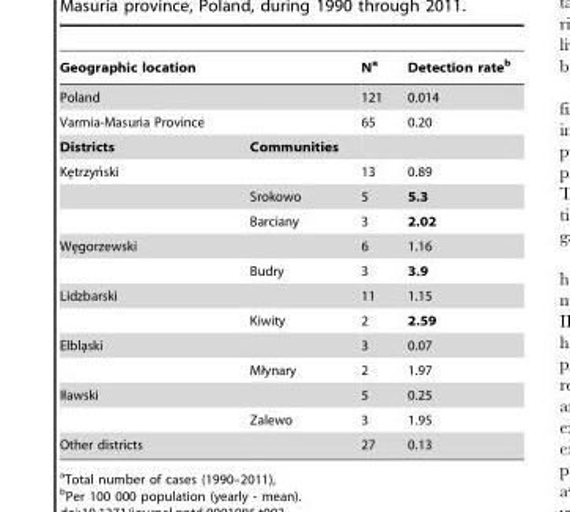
<table><thead><tr><td colspan="2">Geographic location</td><td rowspan="2">N<sup>a</sup> 121</td><td rowspan="2">Detection rate<sup>b</sup> 0.014</td></tr><tr><td>Poland</td><td></td></tr></thead><tbody><tr><td>Varmia-Masuria Province</td><td></td><td>65</td><td>0.20</td></tr><tr><td>Districts</td><td>Communities</td><td></td><td></td></tr><tr><td rowspan="3">Ke˛trzyn´ski</td><td></td><td>13</td><td>0.89</td></tr><tr><td>Srokowo</td><td>5</td><td>5.3</td></tr><tr><td>Barciany</td><td>3</td><td>2.02</td></tr><tr><td rowspan="2">We˛gorzewski</td><td></td><td>6</td><td>1.16</td></tr><tr><td>Budry</td><td>3</td><td>3.9</td></tr><tr><td rowspan="2">Lidzbarski</td><td></td><td>11</td><td>1.15</td></tr><tr><td>Kiwity</td><td>2</td><td>2.59</td></tr><tr><td rowspan="2">Elbla˛ski</td><td></td><td>3</td><td>0.07</td></tr><tr><td>Młynary</td><td>2</td><td>1.97</td></tr><tr><td rowspan="2">Iławski</td><td></td><td>5</td><td>0.25</td></tr><tr><td>Zalewo</td><td>3</td><td>1.95</td></tr><tr><td>Other districts</td><td></td><td>27</td><td>0.13</td></tr></tbody></table>